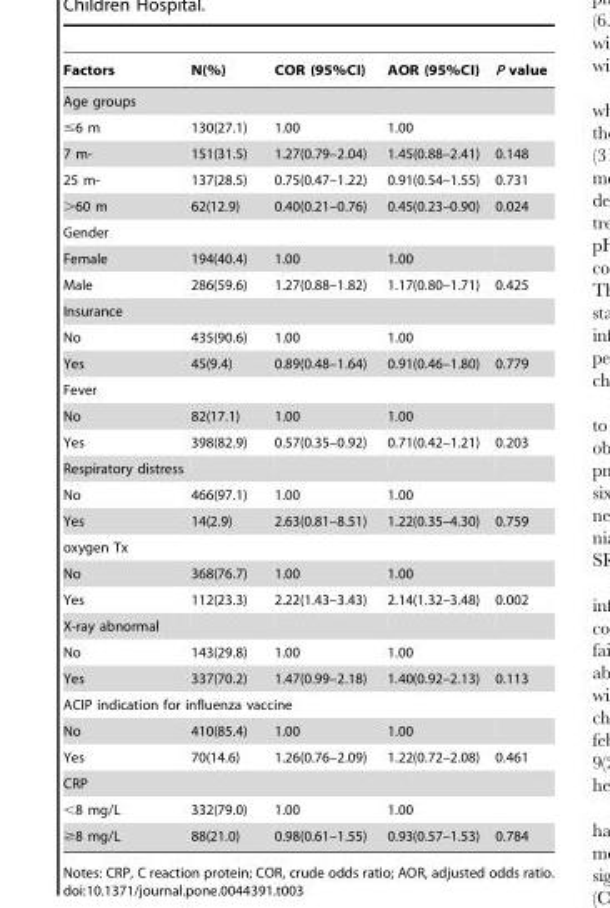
<table><thead><tr><td>Factors</td><td>N(%)</td><td>COR (95%CI)</td><td>AOR (95%CI)</td><td>P value</td></tr></thead><tbody><tr><td colspan="5">Age groups</td></tr><tr><td>≤6 m</td><td>130(27.1)</td><td>1.00</td><td>1.00</td><td></td></tr><tr><td>7 m-</td><td>151(31.5)</td><td>1.27(0.79–2.04)</td><td>1.45(0.88–2.41)</td><td>0.148</td></tr><tr><td>25 m-</td><td>137(28.5)</td><td>0.75(0.47–1.22)</td><td>0.91(0.54–1.55)</td><td>0.731</td></tr><tr><td>&gt;60 m</td><td>62(12.9)</td><td>0.40(0.21–0.76)</td><td>0.45(0.23–0.90)</td><td>0.024</td></tr><tr><td colspan="5">Gender</td></tr><tr><td>Female</td><td>194(40.4)</td><td>1.00</td><td>1.00</td><td></td></tr><tr><td>Male</td><td>286(59.6)</td><td>1.27(0.88–1.82)</td><td>1.17(0.80–1.71)</td><td>0.425</td></tr><tr><td colspan="5">Insurance</td></tr><tr><td>No</td><td>435(90.6)</td><td>1.00</td><td>1.00</td><td></td></tr><tr><td>Yes</td><td>45(9.4)</td><td>0.89(0.48–1.64)</td><td>0.91(0.46–1.80)</td><td>0.779</td></tr><tr><td colspan="5">Fever</td></tr><tr><td>No</td><td>82(17.1)</td><td>1.00</td><td>1.00</td><td></td></tr><tr><td>Yes</td><td>398(82.9)</td><td>0.57(0.35–0.92)</td><td>0.71(0.42–1.21)</td><td>0.203</td></tr><tr><td colspan="5">Respiratory distress</td></tr><tr><td>No</td><td>466(97.1)</td><td>1.00</td><td>1.00</td><td></td></tr><tr><td>Yes</td><td>14(2.9)</td><td>2.63(0.81–8.51)</td><td>1.22(0.35–4.30)</td><td>0.759</td></tr><tr><td colspan="5">oxygen Tx</td></tr><tr><td>No</td><td>368(76.7)</td><td>1.00</td><td>1.00</td><td></td></tr><tr><td>Yes</td><td>112(23.3)</td><td>2.22(1.43–3.43)</td><td>2.14(1.32–3.48)</td><td>0.002</td></tr><tr><td colspan="5">X-ray abnormal</td></tr><tr><td>No</td><td>143(29.8)</td><td>1.00</td><td>1.00</td><td></td></tr><tr><td>Yes</td><td>337(70.2)</td><td>1.47(0.99–2.18)</td><td>1.40(0.92–2.13)</td><td>0.113</td></tr><tr><td colspan="5">ACIP indication for influenza vaccine</td></tr><tr><td>No</td><td>410(85.4)</td><td>1.00</td><td>1.00</td><td></td></tr><tr><td>Yes</td><td>70(14.6)</td><td>1.26(0.76–2.09)</td><td>1.22(0.72–2.08)</td><td>0.461</td></tr><tr><td colspan="5">CRP</td></tr><tr><td>&lt;8 mg/L</td><td>332(79.0)</td><td>1.00</td><td>1.00</td><td></td></tr><tr><td>≥8 mg/L</td><td>88(21.0)</td><td>0.98(0.61–1.55)</td><td>0.93(0.57–1.53)</td><td>0.784</td></tr></tbody></table>